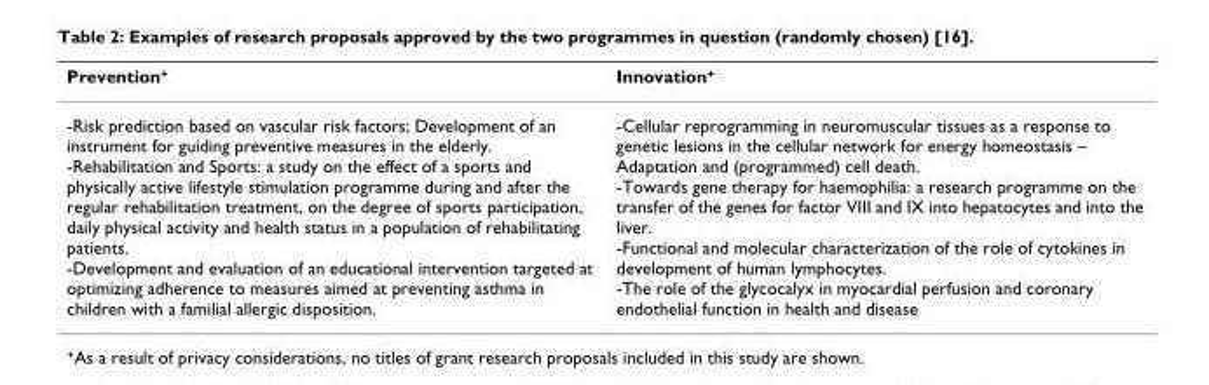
<table><thead><tr><td>Prevention<sup>+</sup></td><td>Innovation<sup>+</sup></td></tr></thead><tbody><tr><td>-Risk prediction based on vascular risk factors; Development of an instrument for guiding preventive measures in the elderly. -Rehabilitation and Sports: a study on the effect of a sports and physically active lifestyle stimulation programme during and after the regular rehabilitation treatment, on the degree of sports participation, daily physical activity and health status in a population of rehabilitating patients. -Development and evaluation of an educational intervention targeted at optimizing adherence to measures aimed at preventing asthma in children with a familial allergic disposition.</td><td>-Cellular reprogramming in neuromuscular tissues as a response to genetic lesions in the cellular network for energy homeostasis – Adaptation and (programmed) cell death. -Towards gene therapy for haemophilia: a research programme on the transfer of the genes for factor VIII and IX into hepatocytes and into the liver. -Functional and molecular characterization of the role of cytokines in development of human lymphocytes. -The role of the glycocalyx in myocardial perfusion and coronary endothelial function in health and disease</td></tr></tbody></table>